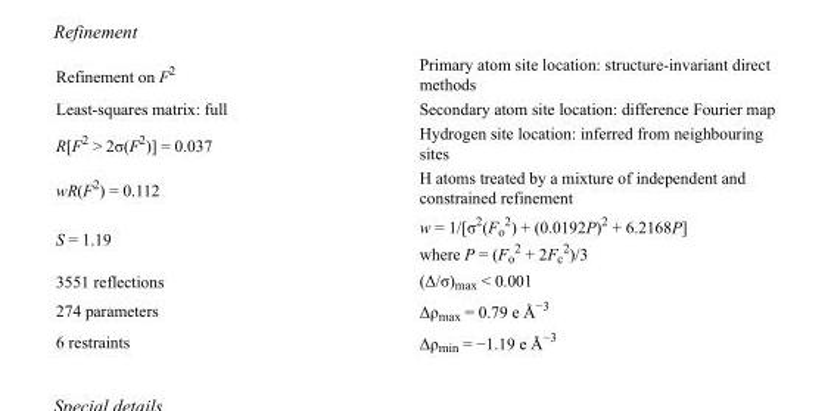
<table><tbody><tr><td>Refinement on F<sup>2</sup></td><td>Primary atom site location: structure-invariant direct methods</td></tr><tr><td>Least-squares matrix: full</td><td>Secondary atom site location: difference Fourier map</td></tr><tr><td>R[F<sup>2</sup> &gt; 2σ(F<sup>2</sup>)] = 0.037</td><td>Hydrogen site location: inferred from neighbouring sites</td></tr><tr><td>wR(F<sup>2</sup>) = 0.112</td><td>H atoms treated by a mixture of independent and constrained refinement</td></tr><tr><td>S = 1.19</td><td>w = 1/[σ<sup>2</sup>(F<sub>o</sub> <sup>2</sup>) + (0.0192P)<sup>2</sup> + 6.2168P] where P = (F<sub>o</sub> <sup>2</sup> + 2F<sub>c</sub> <sup>2</sup>)/3</td></tr><tr><td>3551 reflections</td><td>(Δ/σ)<sub>max</sub> &lt; 0.001</td></tr><tr><td>274 parameters</td><td>Δρ<sub>max</sub> = 0.79 e Å<sup>−3</sup></td></tr><tr><td>6 restraints</td><td>Δρ<sub>min</sub> = −1.19 e Å<sup>−3</sup></td></tr></tbody></table>